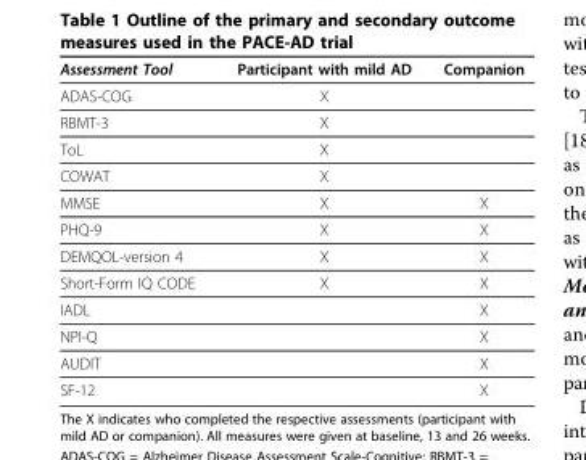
<table><thead><tr><td>Assessment Tool</td><td>Participant with mild AD</td><td>Companion</td></tr></thead><tbody><tr><td>ADAS-COG</td><td>X</td><td></td></tr><tr><td>RBMT-3</td><td>X</td><td></td></tr><tr><td>ToL</td><td>X</td><td></td></tr><tr><td>COWAT</td><td>X</td><td></td></tr><tr><td>MMSE</td><td>X</td><td>X</td></tr><tr><td>PHQ-9</td><td>X</td><td>X</td></tr><tr><td>DEMQOL-version 4</td><td>X</td><td>X</td></tr><tr><td>Short-Form IQ CODE</td><td>X</td><td>X</td></tr><tr><td>IADL</td><td></td><td>X</td></tr><tr><td>NPI-Q</td><td></td><td>X</td></tr><tr><td>AUDIT</td><td></td><td>X</td></tr><tr><td>SF-12</td><td></td><td>X</td></tr></tbody></table>